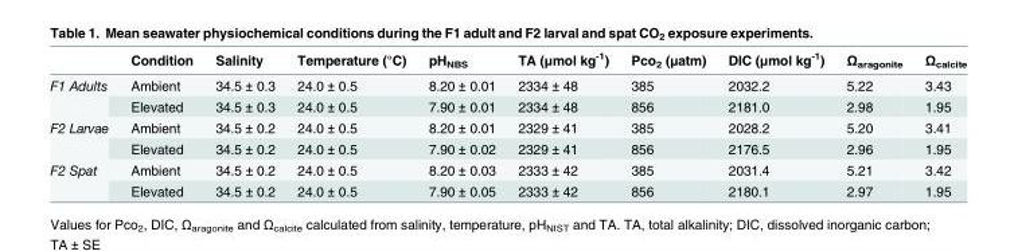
<table><thead><tr><td></td><td>Condition</td><td>Salinity</td><td>Temperature (°C)</td><td>pH<sub>NBS</sub></td><td>TA (μmol kg<sup>-1</sup>)</td><td>Pco<sub>2</sub> (μatm)</td><td>DIC (μmol kg<sup>-1</sup>)</td><td>Ω<sub>aragonite</sub></td><td>Ω<sub>calcite</sub></td></tr></thead><tbody><tr><td rowspan="2">F1 Adults</td><td>Ambient</td><td>34.5 ± 0.3</td><td>24.0 ± 0.5</td><td>8.20 ± 0.01</td><td>2334 ± 48</td><td>385</td><td>2032.2</td><td>5.22</td><td>3.43</td></tr><tr><td>Elevated</td><td>34.5 ± 0.3</td><td>24.0 ± 0.5</td><td>7.90 ± 0.01</td><td>2334 ± 48</td><td>856</td><td>2181.0</td><td>2.98</td><td>1.95</td></tr><tr><td rowspan="2">F2 Larvae</td><td>Ambient</td><td>34.5 ± 0.2</td><td>24.0 ± 0.5</td><td>8.20 ± 0.01</td><td>2329 ± 41</td><td>385</td><td>2028.2</td><td>5.20</td><td>3.41</td></tr><tr><td>Elevated</td><td>34.5 ± 0.2</td><td>24.0 ± 0.5</td><td>7.90 ± 0.02</td><td>2329 ± 41</td><td>856</td><td>2176.5</td><td>2.96</td><td>1.95</td></tr><tr><td rowspan="2">F2 Spat</td><td>Ambient</td><td>34.5 ± 0.2</td><td>24.0 ± 0.5</td><td>8.20 ± 0.03</td><td>2333 ± 42</td><td>385</td><td>2031.4</td><td>5.21</td><td>3.42</td></tr><tr><td>Elevated</td><td>34.5 ± 0.2</td><td>24.0 ± 0.5</td><td>7.90 ± 0.05</td><td>2333 ± 42</td><td>856</td><td>2180.1</td><td>2.97</td><td>1.95</td></tr></tbody></table>